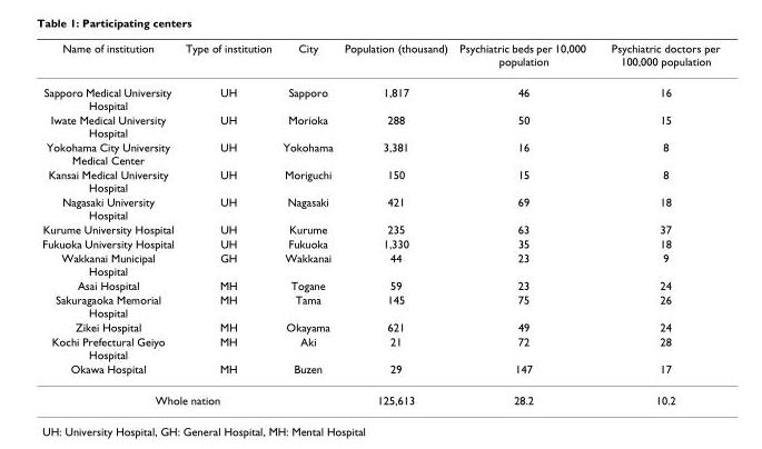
<table><thead><tr><td>Name of institution</td><td>Type of institution</td><td>City</td><td>Population (thousand)</td><td>Psychiatric beds per 10,000 population</td><td>Psychiatric doctors per 100,000 population</td></tr></thead><tbody><tr><td>Sapporo Medical University Hospital</td><td>UH</td><td>Sapporo</td><td>1,817</td><td>46</td><td>16</td></tr><tr><td>Iwate Medical University Hospital</td><td>UH</td><td>Morioka</td><td>288</td><td>50</td><td>15</td></tr><tr><td>Yokohama City University Medical Center</td><td>UH</td><td>Yokohama</td><td>3,381</td><td>16</td><td>8</td></tr><tr><td>Kansai Medical University Hospital</td><td>UH</td><td>Moriguchi</td><td>150</td><td>15</td><td>8</td></tr><tr><td>Nagasaki University Hospital</td><td>UH</td><td>Nagasaki</td><td>421</td><td>69</td><td>18</td></tr><tr><td>Kurume University Hospital</td><td>UH</td><td>Kurume</td><td>235</td><td>63</td><td>37</td></tr><tr><td>Fukuoka University Hospital</td><td>UH</td><td>Fukuoka</td><td>1,330</td><td>35</td><td>18</td></tr><tr><td>Wakkanai Municipal Hospital</td><td>GH</td><td>Wakkanai</td><td>44</td><td>23</td><td>9</td></tr><tr><td>Asai Hospital</td><td>MH</td><td>Togane</td><td>59</td><td>23</td><td>24</td></tr><tr><td>Sakuragaoka Memorial Hospital</td><td>MH</td><td>Tama</td><td>145</td><td>75</td><td>26</td></tr><tr><td>Zikei Hospital</td><td>MH</td><td>Okayama</td><td>621</td><td>49</td><td>24</td></tr><tr><td>Kochi Prefectural Geiyo Hospital</td><td>MH</td><td>Aki</td><td>21</td><td>72</td><td>28</td></tr><tr><td>Okawa Hospital</td><td>MH</td><td>Buzen</td><td>29</td><td>147</td><td>17</td></tr><tr><td colspan="3">Whole nation</td><td>125,613</td><td>28.2</td><td>10.2</td></tr></tbody></table>